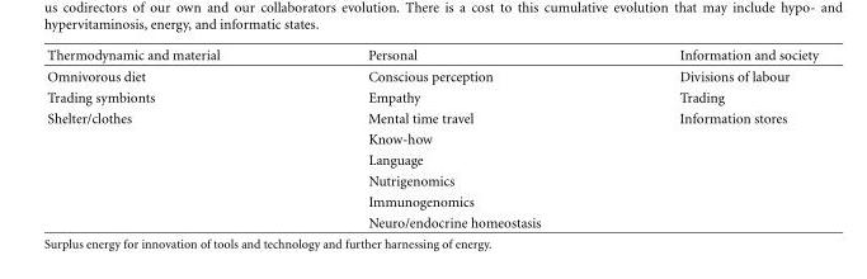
<table><thead><tr><td>Thermodynamic and material</td><td>Personal</td><td>Information and society</td></tr></thead><tbody><tr><td>Omnivorous diet</td><td>Conscious perception</td><td>Divisions of labour</td></tr><tr><td>Trading symbionts</td><td>Empathy</td><td>Trading</td></tr><tr><td rowspan="6">Shelter/clothes</td><td>Mental time travel</td><td>Information stores</td></tr><tr><td>Know-how</td><td></td></tr><tr><td>Language</td><td></td></tr><tr><td>Nutrigenomics</td><td></td></tr><tr><td>Immunogenomics</td><td></td></tr><tr><td>Neuro/endocrine homeostasis</td><td></td></tr></tbody></table>